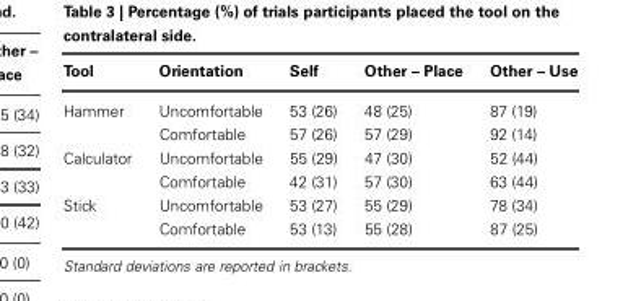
<table><thead><tr><td>Tool</td><td>Orientation</td><td>Self</td><td>Other – Place</td><td>Other – Use</td></tr></thead><tbody><tr><td rowspan="2">Hammer</td><td>Uncomfortable</td><td>53 (26)</td><td>48 (25)</td><td>87 (19)</td></tr><tr><td>Comfortable</td><td>57 (26)</td><td>57 (29)</td><td>92 (14)</td></tr><tr><td rowspan="2">Calculator</td><td>Uncomfortable</td><td>55 (29)</td><td>47 (30)</td><td>52 (44)</td></tr><tr><td>Comfortable</td><td>42 (31)</td><td>57 (30)</td><td>63 (44)</td></tr><tr><td rowspan="2">Stick</td><td>Uncomfortable</td><td>53 (27)</td><td>55 (29)</td><td>78 (34)</td></tr><tr><td>Comfortable</td><td>53 (13)</td><td>55 (28)</td><td>87 (25)</td></tr></tbody></table>